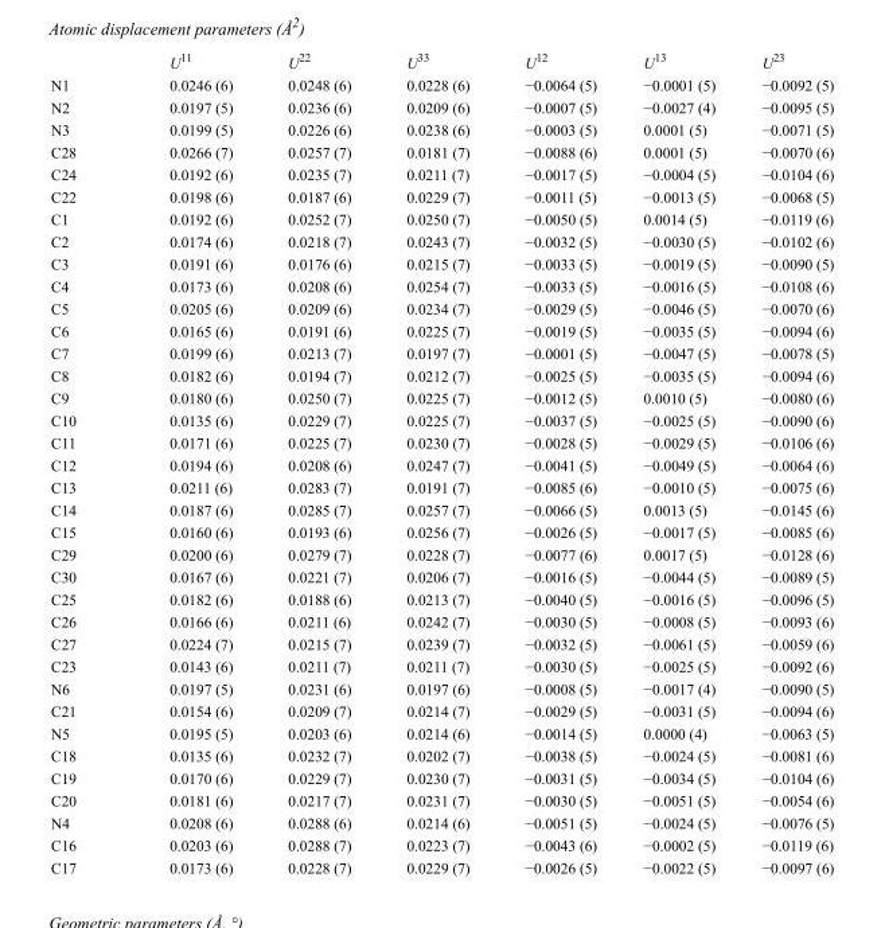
<table><thead><tr><td></td><td>U<sup>11</sup></td><td>U<sup>22</sup></td><td>U<sup>33</sup></td><td>U<sup>12</sup></td><td>U<sup>13</sup></td><td>U<sup>23</sup></td></tr></thead><tbody><tr><td>N1</td><td>0.0246 (6)</td><td>0.0248 (6)</td><td>0.0228 (6)</td><td>−0.0064 (5)</td><td>−0.0001 (5)</td><td>−0.0092 (5)</td></tr><tr><td>N2</td><td>0.0197 (5)</td><td>0.0236 (6)</td><td>0.0209 (6)</td><td>−0.0007 (5)</td><td>−0.0027 (4)</td><td>−0.0095 (5)</td></tr><tr><td>N3</td><td>0.0199 (5)</td><td>0.0226 (6)</td><td>0.0238 (6)</td><td>−0.0003 (5)</td><td>0.0001 (5)</td><td>−0.0071 (5)</td></tr><tr><td>C28</td><td>0.0266 (7)</td><td>0.0257 (7)</td><td>0.0181 (7)</td><td>−0.0088 (6)</td><td>0.0001 (5)</td><td>−0.0070 (6)</td></tr><tr><td>C24</td><td>0.0192 (6)</td><td>0.0235 (7)</td><td>0.0211 (7)</td><td>−0.0017 (5)</td><td>−0.0004 (5)</td><td>−0.0104 (6)</td></tr><tr><td>C22</td><td>0.0198 (6)</td><td>0.0187 (6)</td><td>0.0229 (7)</td><td>−0.0011 (5)</td><td>−0.0013 (5)</td><td>−0.0068 (5)</td></tr><tr><td>C1</td><td>0.0192 (6)</td><td>0.0252 (7)</td><td>0.0250 (7)</td><td>−0.0050 (5)</td><td>0.0014 (5)</td><td>−0.0119 (6)</td></tr><tr><td>C2</td><td>0.0174 (6)</td><td>0.0218 (7)</td><td>0.0243 (7)</td><td>−0.0032 (5)</td><td>−0.0030 (5)</td><td>−0.0102 (6)</td></tr><tr><td>C3</td><td>0.0191 (6)</td><td>0.0176 (6)</td><td>0.0215 (7)</td><td>−0.0033 (5)</td><td>−0.0019 (5)</td><td>−0.0090 (5)</td></tr><tr><td>C4</td><td>0.0173 (6)</td><td>0.0208 (6)</td><td>0.0254 (7)</td><td>−0.0033 (5)</td><td>−0.0016 (5)</td><td>−0.0108 (6)</td></tr><tr><td>C5</td><td>0.0205 (6)</td><td>0.0209 (6)</td><td>0.0234 (7)</td><td>−0.0029 (5)</td><td>−0.0046 (5)</td><td>−0.0070 (6)</td></tr><tr><td>C6</td><td>0.0165 (6)</td><td>0.0191 (6)</td><td>0.0225 (7)</td><td>−0.0019 (5)</td><td>−0.0035 (5)</td><td>−0.0094 (6)</td></tr><tr><td>C7</td><td>0.0199 (6)</td><td>0.0213 (7)</td><td>0.0197 (7)</td><td>−0.0001 (5)</td><td>−0.0047 (5)</td><td>−0.0078 (5)</td></tr><tr><td>C8</td><td>0.0182 (6)</td><td>0.0194 (7)</td><td>0.0212 (7)</td><td>−0.0025 (5)</td><td>−0.0035 (5)</td><td>−0.0094 (6)</td></tr><tr><td>C9</td><td>0.0180 (6)</td><td>0.0250 (7)</td><td>0.0225 (7)</td><td>−0.0012 (5)</td><td>0.0010 (5)</td><td>−0.0080 (6)</td></tr><tr><td>C10</td><td>0.0135 (6)</td><td>0.0229 (7)</td><td>0.0225 (7)</td><td>−0.0037 (5)</td><td>−0.0025 (5)</td><td>−0.0090 (6)</td></tr><tr><td>C11</td><td>0.0171 (6)</td><td>0.0225 (7)</td><td>0.0230 (7)</td><td>−0.0028 (5)</td><td>−0.0029 (5)</td><td>−0.0106 (6)</td></tr><tr><td>C12</td><td>0.0194 (6)</td><td>0.0208 (6)</td><td>0.0247 (7)</td><td>−0.0041 (5)</td><td>−0.0049 (5)</td><td>−0.0064 (6)</td></tr><tr><td>C13</td><td>0.0211 (6)</td><td>0.0283 (7)</td><td>0.0191 (7)</td><td>−0.0085 (6)</td><td>−0.0010 (5)</td><td>−0.0075 (6)</td></tr><tr><td>C14</td><td>0.0187 (6)</td><td>0.0285 (7)</td><td>0.0257 (7)</td><td>−0.0066 (5)</td><td>0.0013 (5)</td><td>−0.0145 (6)</td></tr><tr><td>C15</td><td>0.0160 (6)</td><td>0.0193 (6)</td><td>0.0256 (7)</td><td>−0.0026 (5)</td><td>−0.0017 (5)</td><td>−0.0085 (6)</td></tr><tr><td>C29</td><td>0.0200 (6)</td><td>0.0279 (7)</td><td>0.0228 (7)</td><td>−0.0077 (6)</td><td>0.0017 (5)</td><td>−0.0128 (6)</td></tr><tr><td>C30</td><td>0.0167 (6)</td><td>0.0221 (7)</td><td>0.0206 (7)</td><td>−0.0016 (5)</td><td>−0.0044 (5)</td><td>−0.0089 (5)</td></tr><tr><td>C25</td><td>0.0182 (6)</td><td>0.0188 (6)</td><td>0.0213 (7)</td><td>−0.0040 (5)</td><td>−0.0016 (5)</td><td>−0.0096 (5)</td></tr><tr><td>C26</td><td>0.0166 (6)</td><td>0.0211 (6)</td><td>0.0242 (7)</td><td>−0.0030 (5)</td><td>−0.0008 (5)</td><td>−0.0093 (6)</td></tr><tr><td>C27</td><td>0.0224 (7)</td><td>0.0215 (7)</td><td>0.0239 (7)</td><td>−0.0032 (5)</td><td>−0.0061 (5)</td><td>−0.0059 (6)</td></tr><tr><td>C23</td><td>0.0143 (6)</td><td>0.0211 (7)</td><td>0.0211 (7)</td><td>−0.0030 (5)</td><td>−0.0025 (5)</td><td>−0.0092 (6)</td></tr><tr><td>N6</td><td>0.0197 (5)</td><td>0.0231 (6)</td><td>0.0197 (6)</td><td>−0.0008 (5)</td><td>−0.0017 (4)</td><td>−0.0090 (5)</td></tr><tr><td>C21</td><td>0.0154 (6)</td><td>0.0209 (7)</td><td>0.0214 (7)</td><td>−0.0029 (5)</td><td>−0.0031 (5)</td><td>−0.0094 (6)</td></tr><tr><td>N5</td><td>0.0195 (5)</td><td>0.0203 (6)</td><td>0.0214 (6)</td><td>−0.0014 (5)</td><td>0.0000 (4)</td><td>−0.0063 (5)</td></tr><tr><td>C18</td><td>0.0135 (6)</td><td>0.0232 (7)</td><td>0.0202 (7)</td><td>−0.0038 (5)</td><td>−0.0024 (5)</td><td>−0.0081 (6)</td></tr><tr><td>C19</td><td>0.0170 (6)</td><td>0.0229 (7)</td><td>0.0230 (7)</td><td>−0.0031 (5)</td><td>−0.0034 (5)</td><td>−0.0104 (6)</td></tr><tr><td>C20</td><td>0.0181 (6)</td><td>0.0217 (7)</td><td>0.0231 (7)</td><td>−0.0030 (5)</td><td>−0.0051 (5)</td><td>−0.0054 (6)</td></tr><tr><td>N4</td><td>0.0208 (6)</td><td>0.0288 (6)</td><td>0.0214 (6)</td><td>−0.0051 (5)</td><td>−0.0024 (5)</td><td>−0.0076 (5)</td></tr><tr><td>C16</td><td>0.0203 (6)</td><td>0.0288 (7)</td><td>0.0223 (7)</td><td>−0.0043 (6)</td><td>−0.0002 (5)</td><td>−0.0119 (6)</td></tr><tr><td>C17</td><td>0.0173 (6)</td><td>0.0228 (7)</td><td>0.0229 (7)</td><td>−0.0026 (5)</td><td>−0.0022 (5)</td><td>−0.0097 (6)</td></tr></tbody></table>